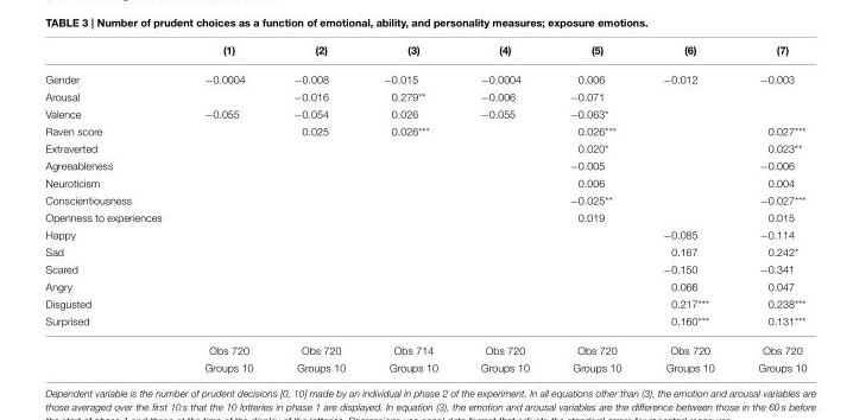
<table><thead><tr><td></td><td>(1)</td><td>(2)</td><td>(3)</td><td>(4)</td><td>(5)</td><td>(6)</td><td>(7)</td></tr></thead><tbody><tr><td>Gender</td><td>−0.0004</td><td>−0.008</td><td>−0.015</td><td>−0.0004</td><td>0.006</td><td>−0.012</td><td>−0.003</td></tr><tr><td>Arousal</td><td></td><td>−0.016</td><td>0.279**</td><td>−0.006</td><td>−0.071</td><td></td><td></td></tr><tr><td>Valence</td><td>−0.055</td><td>−0.054</td><td>0.026</td><td>−0.055</td><td>−0.063*</td><td></td><td></td></tr><tr><td>Raven score</td><td></td><td>0.025</td><td>0.026***</td><td></td><td>0.026***</td><td></td><td>0.027***</td></tr><tr><td>Extraverted</td><td></td><td></td><td></td><td></td><td>0.020*</td><td></td><td>0.023**</td></tr><tr><td>Agreeableness</td><td></td><td></td><td></td><td></td><td>−0.005</td><td></td><td>−0.006</td></tr><tr><td>Neuroticism</td><td></td><td></td><td></td><td></td><td>0.006</td><td></td><td>0.004</td></tr><tr><td>Conscientiousness</td><td></td><td></td><td></td><td></td><td>−0.025**</td><td></td><td>−0.027***</td></tr><tr><td>Openness to experiences</td><td></td><td></td><td></td><td></td><td>0.019</td><td></td><td>0.015</td></tr><tr><td>Happy</td><td></td><td></td><td></td><td></td><td></td><td>−0.085</td><td>−0.114</td></tr><tr><td>Sad</td><td></td><td></td><td></td><td></td><td></td><td>0.167</td><td>0.242*</td></tr><tr><td>Scared</td><td></td><td></td><td></td><td></td><td></td><td>−0.150</td><td>−0.341</td></tr><tr><td>Angry</td><td></td><td></td><td></td><td></td><td></td><td>0.066</td><td>0.047</td></tr><tr><td>Disgusted</td><td></td><td></td><td></td><td></td><td></td><td>0.217***</td><td>0.238***</td></tr><tr><td rowspan="3">Surprised</td><td></td><td></td><td></td><td></td><td></td><td>0.160***</td><td>0.131***</td></tr><tr><td>Obs 720</td><td>Obs 720</td><td>Obs 714</td><td>Obs 720</td><td>Obs 720</td><td>Obs 720</td><td>Obs 720</td></tr><tr><td>Groups 10</td><td>Groups 10</td><td>Groups 10</td><td>Groups 10</td><td>Groups 10</td><td>Groups 10</td><td>Groups 10</td></tr></tbody></table>